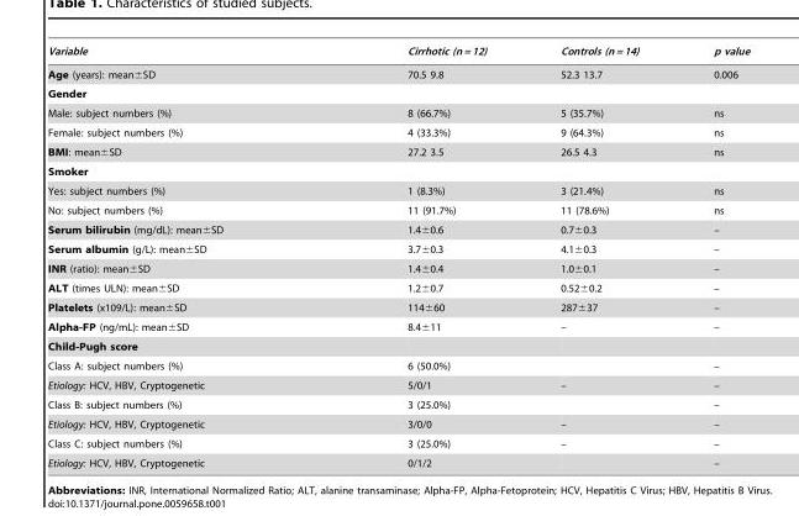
<table><thead><tr><td>Variable</td><td>Cirrhotic (n = 12)</td><td>Controls (n = 14)</td><td>p value</td></tr></thead><tbody><tr><td>Age (years): mean±SD</td><td>70.5 9.8</td><td>52.3 13.7</td><td>0.006</td></tr><tr><td colspan="4">Gender</td></tr><tr><td>Male: subject numbers (%)</td><td>8 (66.7%)</td><td>5 (35.7%)</td><td>ns</td></tr><tr><td>Female: subject numbers (%)</td><td>4 (33.3%)</td><td>9 (64.3%)</td><td>ns</td></tr><tr><td>BMI: mean±SD</td><td>27.2 3.5</td><td>26.5 4.3</td><td>ns</td></tr><tr><td colspan="4">Smoker</td></tr><tr><td>Yes: subject numbers (%)</td><td>1 (8.3%)</td><td>3 (21.4%)</td><td>ns</td></tr><tr><td>No: subject numbers (%)</td><td>11 (91.7%)</td><td>11 (78.6%)</td><td>ns</td></tr><tr><td>Serum bilirubin (mg/dL): mean±SD</td><td>1.4±0.6</td><td>0.7±0.3</td><td>–</td></tr><tr><td>Serum albumin (g/L): mean±SD</td><td>3.7±0.3</td><td>4.1±0.3</td><td>–</td></tr><tr><td>INR (ratio): mean±SD</td><td>1.4±0.4</td><td>1.0±0.1</td><td>–</td></tr><tr><td>ALT (times ULN): mean±SD</td><td>1.2±0.7</td><td>0.52±0.2</td><td>–</td></tr><tr><td>Platelets (x109/L): mean±SD</td><td>114±60</td><td>287±37</td><td>–</td></tr><tr><td>Alpha-FP (ng/mL): mean±SD</td><td>8.4±11</td><td>–</td><td>–</td></tr><tr><td colspan="4">Child-Pugh score</td></tr><tr><td>Class A: subject numbers (%)</td><td>6 (50.0%)</td><td></td><td>–</td></tr><tr><td>Etiology: HCV, HBV, Cryptogenetic</td><td>5/0/1</td><td>–</td><td>–</td></tr><tr><td>Class B: subject numbers (%)</td><td>3 (25.0%)</td><td></td><td>–</td></tr><tr><td>Etiology: HCV, HBV, Cryptogenetic</td><td>3/0/0</td><td>–</td><td>–</td></tr><tr><td>Class C: subject numbers (%)</td><td>3 (25.0%)</td><td>–</td><td>–</td></tr><tr><td>Etiology: HCV, HBV, Cryptogenetic</td><td>0/1/2</td><td></td><td>–</td></tr></tbody></table>